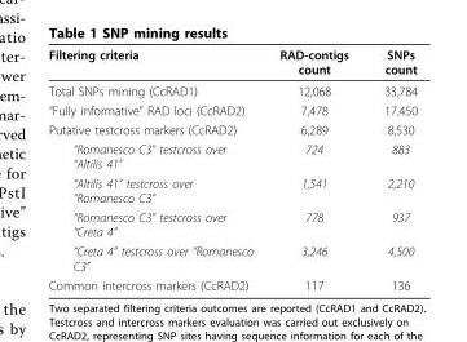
<table><thead><tr><td>Filtering criteria</td><td>RAD-contigs count</td><td>SNPs count</td></tr></thead><tbody><tr><td>Total SNPs mining (CcRAD1)</td><td>12,068</td><td>33,784</td></tr><tr><td>“Fully informative” RAD loci (CcRAD2)</td><td>7,478</td><td>17,450</td></tr><tr><td>Putative testcross markers (CcRAD2)</td><td>6,289</td><td>8,530</td></tr><tr><td>“Romanesco C3” testcross over “Altilis 41”</td><td>724</td><td>883</td></tr><tr><td>“Altilis 41” testcross over “Romanesco C3”</td><td>1,541</td><td>2,210</td></tr><tr><td>“Romanesco C3” testcross over “Creta 4”</td><td>778</td><td>937</td></tr><tr><td>“Creta 4” testcross over “Romanesco C3”</td><td>3,246</td><td>4,500</td></tr><tr><td>Common intercross markers (CcRAD2)</td><td>117</td><td>136</td></tr></tbody></table>